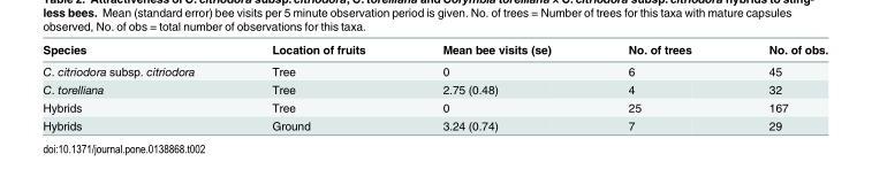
<table><thead><tr><td>Species</td><td>Location of fruits</td><td>Mean bee visits (se)</td><td>No. of trees</td><td>No. of obs.</td></tr></thead><tbody><tr><td>C. citriodora subsp. citriodora</td><td>Tree</td><td>0</td><td>6</td><td>45</td></tr><tr><td>C. torelliana</td><td>Tree</td><td>2.75 (0.48)</td><td>4</td><td>32</td></tr><tr><td>Hybrids</td><td>Tree</td><td>0</td><td>25</td><td>167</td></tr><tr><td>Hybrids</td><td>Ground</td><td>3.24 (0.74)</td><td>7</td><td>29</td></tr></tbody></table>